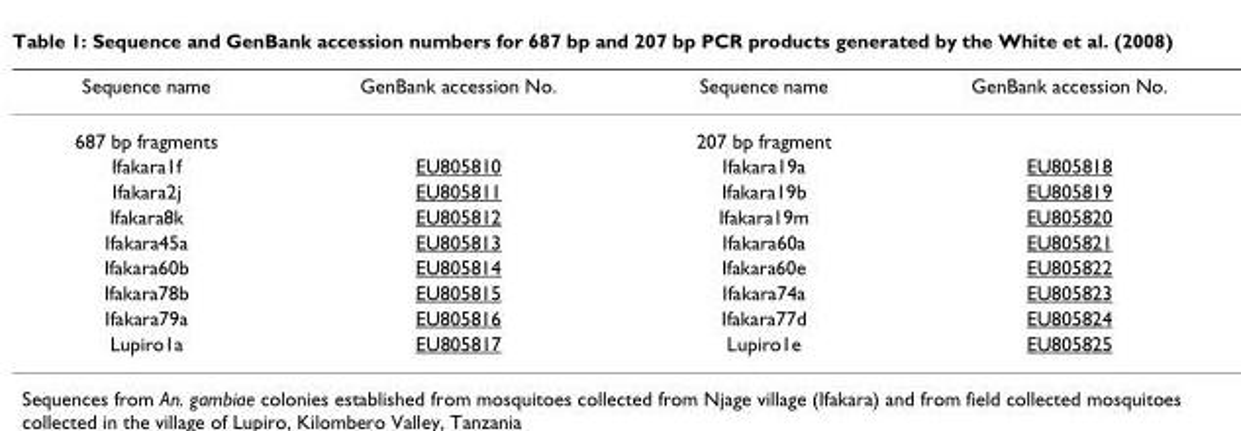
<table><thead><tr><td>Sequence name</td><td>GenBank accession No.</td><td>Sequence name</td><td>GenBank accession No.</td></tr></thead><tbody><tr><td>687 bp fragments</td><td></td><td>207 bp fragment</td><td></td></tr><tr><td>Ifakara1f</td><td>EU805810</td><td>Ifakara19a</td><td>EU805818</td></tr><tr><td>Ifakara2j</td><td>EU805811</td><td>Ifakara19b</td><td>EU805819</td></tr><tr><td>Ifakara8k</td><td>EU805812</td><td>Ifakara19m</td><td>EU805820</td></tr><tr><td>Ifakara45a</td><td>EU805813</td><td>Ifakara60a</td><td>EU805821</td></tr><tr><td>Ifakara60b</td><td>EU805814</td><td>Ifakara60e</td><td>EU805822</td></tr><tr><td>Ifakara78b</td><td>EU805815</td><td>Ifakara74a</td><td>EU805823</td></tr><tr><td>Ifakara79a</td><td>EU805816</td><td>Ifakara77d</td><td>EU805824</td></tr><tr><td>Lupiro1a</td><td>EU805817</td><td>Lupiro1e</td><td>EU805825</td></tr></tbody></table>